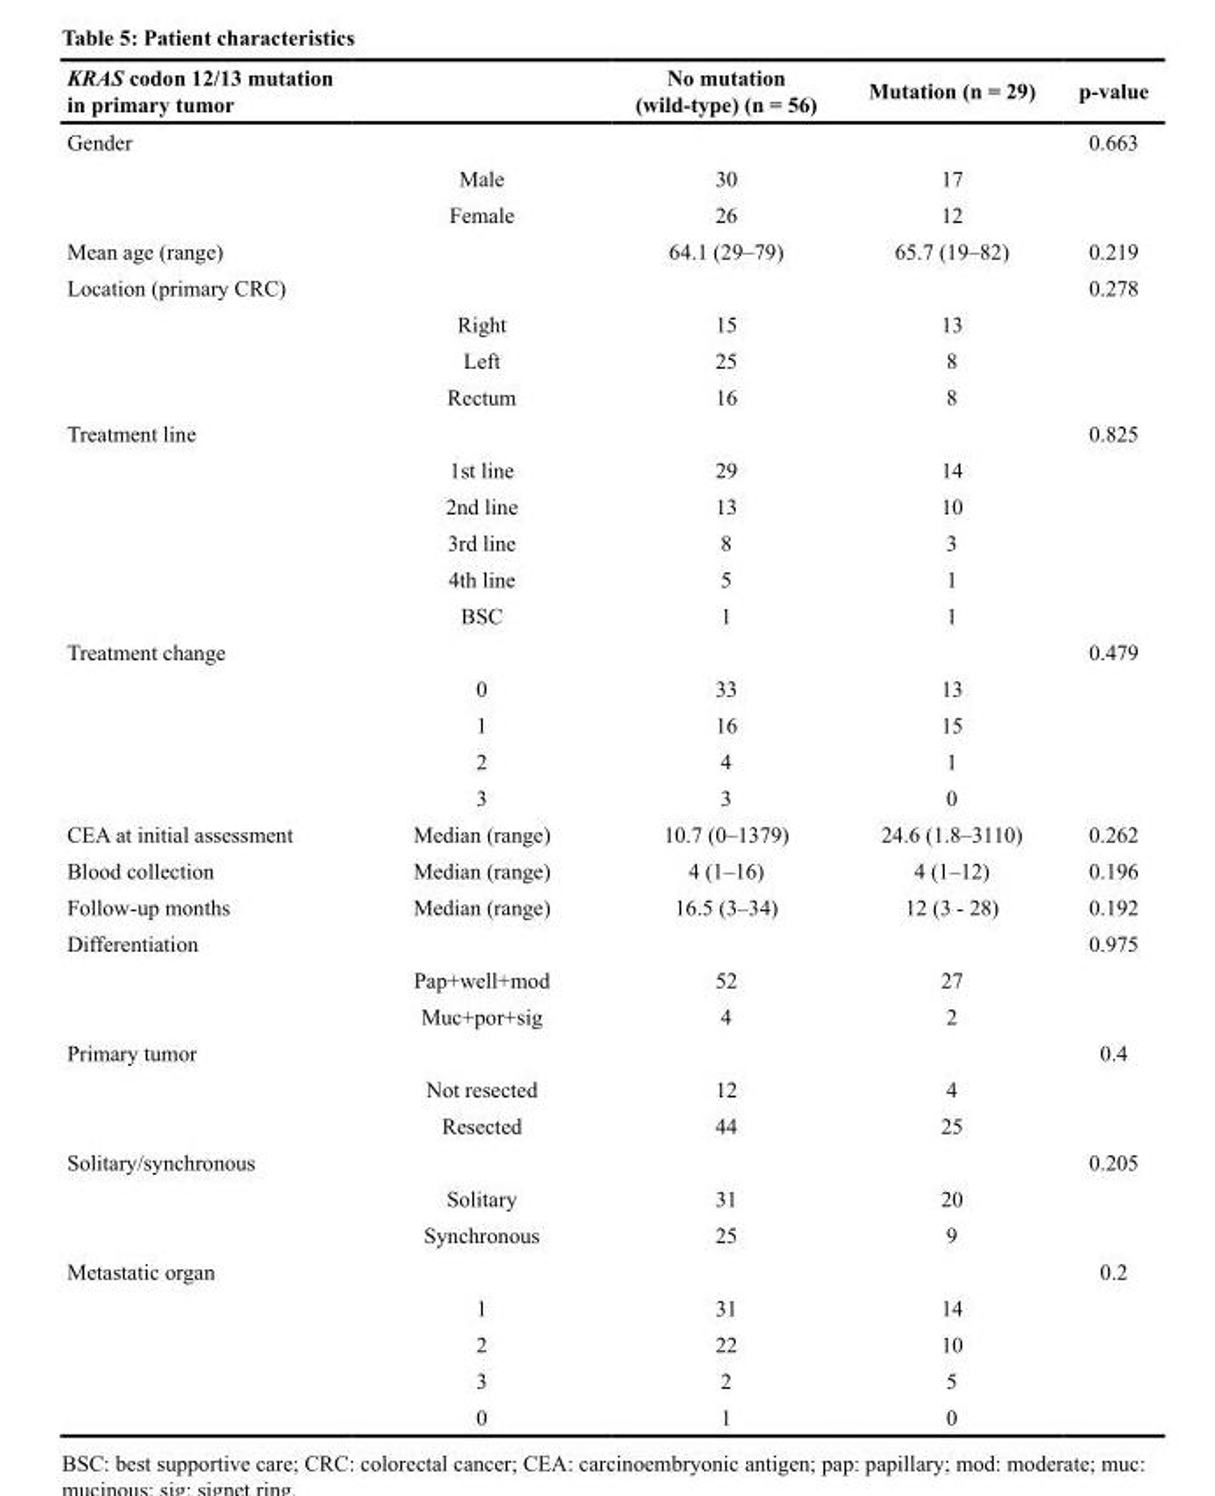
<table><thead><tr><td>KRAS codon 12/13 mutation in primary tumor</td><td></td><td>No mutation (wild-type) (n = 56)</td><td>Mutation (n = 29)</td><td>p-value</td></tr></thead><tbody><tr><td rowspan="3">Gender</td><td></td><td></td><td></td><td>0.663</td></tr><tr><td>Male</td><td>30</td><td>17</td><td></td></tr><tr><td>Female</td><td>26</td><td>12</td><td></td></tr><tr><td>Mean age (range)</td><td></td><td>64.1 (29–79)</td><td>65.7 (19–82)</td><td>0.219</td></tr><tr><td rowspan="4">Location (primary CRC)</td><td></td><td></td><td></td><td>0.278</td></tr><tr><td>Right</td><td>15</td><td>13</td><td></td></tr><tr><td>Left</td><td>25</td><td>8</td><td></td></tr><tr><td>Rectum</td><td>16</td><td>8</td><td></td></tr><tr><td rowspan="6">Treatment line</td><td></td><td></td><td></td><td>0.825</td></tr><tr><td>1st line</td><td>29</td><td>14</td><td></td></tr><tr><td>2nd line</td><td>13</td><td>10</td><td></td></tr><tr><td>3rd line</td><td>8</td><td>3</td><td></td></tr><tr><td>4th line</td><td>5</td><td>1</td><td></td></tr><tr><td>BSC</td><td>1</td><td>1</td><td></td></tr><tr><td rowspan="5">Treatment change</td><td></td><td></td><td></td><td>0.479</td></tr><tr><td>0</td><td>33</td><td>13</td><td></td></tr><tr><td>1</td><td>16</td><td>15</td><td></td></tr><tr><td>2</td><td>4</td><td>1</td><td></td></tr><tr><td>3</td><td>3</td><td>0</td><td></td></tr><tr><td>CEA at initial assessment</td><td>Median (range)</td><td>10.7 (0–1379)</td><td>24.6 (1.8–3110)</td><td>0.262</td></tr><tr><td>Blood collection</td><td>Median (range)</td><td>4 (1–16)</td><td>4 (1–12)</td><td>0.196</td></tr><tr><td>Follow-up months</td><td>Median (range)</td><td>16.5 (3–34)</td><td>12 (3 - 28)</td><td>0.192</td></tr><tr><td rowspan="3">Differentiation</td><td></td><td></td><td></td><td>0.975</td></tr><tr><td>Pap+well+mod</td><td>52</td><td>27</td><td></td></tr><tr><td>Muc+por+sig</td><td>4</td><td>2</td><td></td></tr><tr><td rowspan="3">Primary tumor</td><td></td><td></td><td></td><td>0.4</td></tr><tr><td>Not resected</td><td>12</td><td>4</td><td></td></tr><tr><td>Resected</td><td>44</td><td>25</td><td></td></tr><tr><td rowspan="3">Solitary/synchronous</td><td></td><td></td><td></td><td>0.205</td></tr><tr><td>Solitary</td><td>31</td><td>20</td><td></td></tr><tr><td>Synchronous</td><td>25</td><td>9</td><td></td></tr><tr><td rowspan="5">Metastatic organ</td><td></td><td></td><td></td><td>0.2</td></tr><tr><td>1</td><td>31</td><td>14</td><td></td></tr><tr><td>2</td><td>22</td><td>10</td><td></td></tr><tr><td>3</td><td>2</td><td>5</td><td></td></tr><tr><td>0</td><td>1</td><td>0</td><td></td></tr></tbody></table>